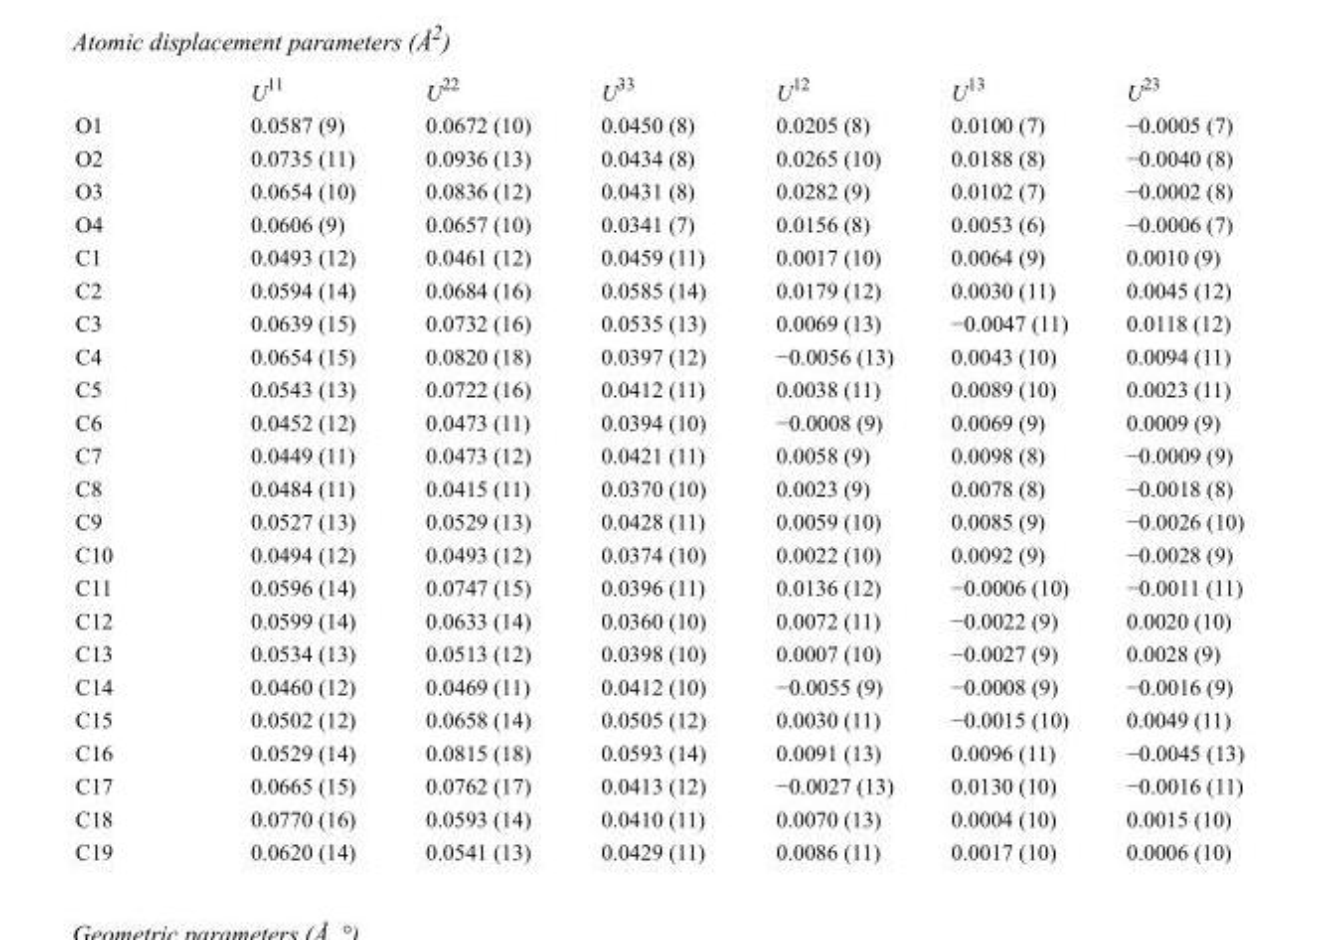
<table><thead><tr><td></td><td>U<sup>11</sup></td><td>U<sup>22</sup></td><td>U<sup>33</sup></td><td>U<sup>12</sup></td><td>U<sup>13</sup></td><td>U<sup>23</sup></td></tr></thead><tbody><tr><td>O1</td><td>0.0587 (9)</td><td>0.0672 (10)</td><td>0.0450 (8)</td><td>0.0205 (8)</td><td>0.0100 (7)</td><td>−0.0005 (7)</td></tr><tr><td>O2</td><td>0.0735 (11)</td><td>0.0936 (13)</td><td>0.0434 (8)</td><td>0.0265 (10)</td><td>0.0188 (8)</td><td>−0.0040 (8)</td></tr><tr><td>O3</td><td>0.0654 (10)</td><td>0.0836 (12)</td><td>0.0431 (8)</td><td>0.0282 (9)</td><td>0.0102 (7)</td><td>−0.0002 (8)</td></tr><tr><td>O4</td><td>0.0606 (9)</td><td>0.0657 (10)</td><td>0.0341 (7)</td><td>0.0156 (8)</td><td>0.0053 (6)</td><td>−0.0006 (7)</td></tr><tr><td>C1</td><td>0.0493 (12)</td><td>0.0461 (12)</td><td>0.0459 (11)</td><td>0.0017 (10)</td><td>0.0064 (9)</td><td>0.0010 (9)</td></tr><tr><td>C2</td><td>0.0594 (14)</td><td>0.0684 (16)</td><td>0.0585 (14)</td><td>0.0179 (12)</td><td>0.0030 (11)</td><td>0.0045 (12)</td></tr><tr><td>C3</td><td>0.0639 (15)</td><td>0.0732 (16)</td><td>0.0535 (13)</td><td>0.0069 (13)</td><td>−0.0047 (11)</td><td>0.0118 (12)</td></tr><tr><td>C4</td><td>0.0654 (15)</td><td>0.0820 (18)</td><td>0.0397 (12)</td><td>−0.0056 (13)</td><td>0.0043 (10)</td><td>0.0094 (11)</td></tr><tr><td>C5</td><td>0.0543 (13)</td><td>0.0722 (16)</td><td>0.0412 (11)</td><td>0.0038 (11)</td><td>0.0089 (10)</td><td>0.0023 (11)</td></tr><tr><td>C6</td><td>0.0452 (12)</td><td>0.0473 (11)</td><td>0.0394 (10)</td><td>−0.0008 (9)</td><td>0.0069 (9)</td><td>0.0009 (9)</td></tr><tr><td>C7</td><td>0.0449 (11)</td><td>0.0473 (12)</td><td>0.0421 (11)</td><td>0.0058 (9)</td><td>0.0098 (8)</td><td>−0.0009 (9)</td></tr><tr><td>C8</td><td>0.0484 (11)</td><td>0.0415 (11)</td><td>0.0370 (10)</td><td>0.0023 (9)</td><td>0.0078 (8)</td><td>−0.0018 (8)</td></tr><tr><td>C9</td><td>0.0527 (13)</td><td>0.0529 (13)</td><td>0.0428 (11)</td><td>0.0059 (10)</td><td>0.0085 (9)</td><td>−0.0026 (10)</td></tr><tr><td>C10</td><td>0.0494 (12)</td><td>0.0493 (12)</td><td>0.0374 (10)</td><td>0.0022 (10)</td><td>0.0092 (9)</td><td>−0.0028 (9)</td></tr><tr><td>C11</td><td>0.0596 (14)</td><td>0.0747 (15)</td><td>0.0396 (11)</td><td>0.0136 (12)</td><td>−0.0006 (10)</td><td>−0.0011 (11)</td></tr><tr><td>C12</td><td>0.0599 (14)</td><td>0.0633 (14)</td><td>0.0360 (10)</td><td>0.0072 (11)</td><td>−0.0022 (9)</td><td>0.0020 (10)</td></tr><tr><td>C13</td><td>0.0534 (13)</td><td>0.0513 (12)</td><td>0.0398 (10)</td><td>0.0007 (10)</td><td>−0.0027 (9)</td><td>0.0028 (9)</td></tr><tr><td>C14</td><td>0.0460 (12)</td><td>0.0469 (11)</td><td>0.0412 (10)</td><td>−0.0055 (9)</td><td>−0.0008 (9)</td><td>−0.0016 (9)</td></tr><tr><td>C15</td><td>0.0502 (12)</td><td>0.0658 (14)</td><td>0.0505 (12)</td><td>0.0030 (11)</td><td>−0.0015 (10)</td><td>0.0049 (11)</td></tr><tr><td>C16</td><td>0.0529 (14)</td><td>0.0815 (18)</td><td>0.0593 (14)</td><td>0.0091 (13)</td><td>0.0096 (11)</td><td>−0.0045 (13)</td></tr><tr><td>C17</td><td>0.0665 (15)</td><td>0.0762 (17)</td><td>0.0413 (12)</td><td>−0.0027 (13)</td><td>0.0130 (10)</td><td>−0.0016 (11)</td></tr><tr><td>C18</td><td>0.0770 (16)</td><td>0.0593 (14)</td><td>0.0410 (11)</td><td>0.0070 (13)</td><td>0.0004 (10)</td><td>0.0015 (10)</td></tr><tr><td>C19</td><td>0.0620 (14)</td><td>0.0541 (13)</td><td>0.0429 (11)</td><td>0.0086 (11)</td><td>0.0017 (10)</td><td>0.0006 (10)</td></tr></tbody></table>